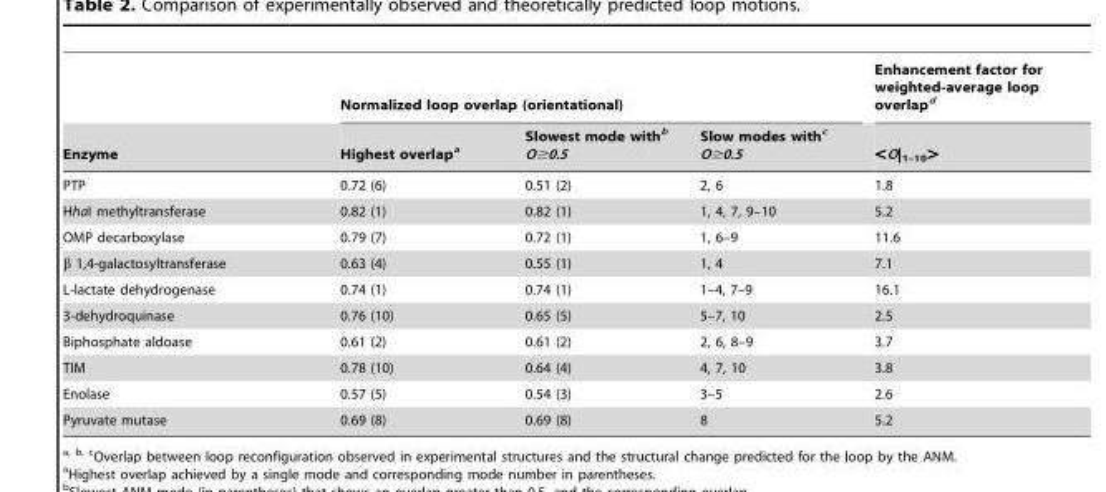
<table><thead><tr><td rowspan="2">Enzyme</td><td colspan="3">Normalized loop overlap (orientational)</td><td rowspan="2">Enhancement factor for weighted-average loop overlap<sup>d</sup> &lt;O|<sub>1–10</sub>&gt;</td></tr><tr><td>Highest overlap<sup>a</sup></td><td>Slowest mode with<sup>b</sup> O≥0.5</td><td>Slow modes with<sup>c</sup> O≥0.5</td></tr></thead><tbody><tr><td>PTP</td><td>0.72 (6)</td><td>0.51 (2)</td><td>2, 6</td><td>1.8</td></tr><tr><td>HhaI methyltransferase</td><td>0.82 (1)</td><td>0.82 (1)</td><td>1, 4, 7, 9–10</td><td>5.2</td></tr><tr><td>OMP decarboxylase</td><td>0.79 (7)</td><td>0.72 (1)</td><td>1, 6–9</td><td>11.6</td></tr><tr><td>β 1,4-galactosyltransferase</td><td>0.63 (4)</td><td>0.55 (1)</td><td>1, 4</td><td>7.1</td></tr><tr><td>L-lactate dehydrogenase</td><td>0.74 (1)</td><td>0.74 (1)</td><td>1–4, 7–9</td><td>16.1</td></tr><tr><td>3-dehydroquinase</td><td>0.76 (10)</td><td>0.65 (5)</td><td>5–7, 10</td><td>2.5</td></tr><tr><td>Biphosphate aldoase</td><td>0.61 (2)</td><td>0.61 (2)</td><td>2, 6, 8–9</td><td>3.7</td></tr><tr><td>TIM</td><td>0.78 (10)</td><td>0.64 (4)</td><td>4, 7, 10</td><td>3.8</td></tr><tr><td>Enolase</td><td>0.57 (5)</td><td>0.54 (3)</td><td>3–5</td><td>2.6</td></tr><tr><td>Pyruvate mutase</td><td>0.69 (8)</td><td>0.69 (8)</td><td>8</td><td>5.2</td></tr></tbody></table>